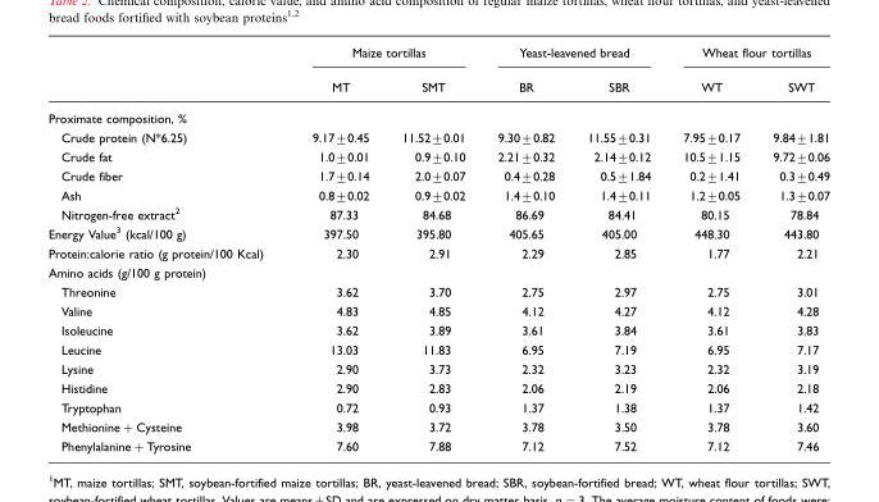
<table><thead><tr><td rowspan="2"></td><td colspan="2">Maize tortillas</td><td colspan="2">Yeast-leavened bread</td><td colspan="2">Wheat flour tortillas</td></tr><tr><td>MT</td><td>SMT</td><td>BR</td><td>SBR</td><td>WT</td><td>SWT</td></tr></thead><tbody><tr><td colspan="7">Proximate composition, %</td></tr><tr><td>Crude protein (N*6.25)</td><td>9.17±0.45</td><td>11.52±0.01</td><td>9.30±0.82</td><td>11.55±0.31</td><td>7.95±0.17</td><td>9.84±1.81</td></tr><tr><td>Crude fat</td><td>1.0±0.01</td><td>0.9±0.10</td><td>2.21±0.32</td><td>2.14±0.12</td><td>10.5±1.15</td><td>9.72±0.06</td></tr><tr><td>Crude fiber</td><td>1.7±0.14</td><td>2.0±0.07</td><td>0.4±0.28</td><td>0.5±1.84</td><td>0.2±1.41</td><td>0.3±0.49</td></tr><tr><td>Ash</td><td>0.8±0.02</td><td>0.9±0.02</td><td>1.4±0.10</td><td>1.4±0.11</td><td>1.2±0.05</td><td>1.3±0.07</td></tr><tr><td>Nitrogen-free extract<sup>2</sup></td><td>87.33</td><td>84.68</td><td>86.69</td><td>84.41</td><td>80.15</td><td>78.84</td></tr><tr><td>Energy Value<sup>3</sup> (kcal/100 g)</td><td>397.50</td><td>395.80</td><td>405.65</td><td>405.00</td><td>448.30</td><td>443.80</td></tr><tr><td>Protein:calorie ratio (g protein/100 Kcal)</td><td>2.30</td><td>2.91</td><td>2.29</td><td>2.85</td><td>1.77</td><td>2.21</td></tr><tr><td colspan="7">Amino acids (g/100 g protein)</td></tr><tr><td>Threonine</td><td>3.62</td><td>3.70</td><td>2.75</td><td>2.97</td><td>2.75</td><td>3.01</td></tr><tr><td>Valine</td><td>4.83</td><td>4.85</td><td>4.12</td><td>4.27</td><td>4.12</td><td>4.28</td></tr><tr><td>Isoleucine</td><td>3.62</td><td>3.89</td><td>3.61</td><td>3.84</td><td>3.61</td><td>3.83</td></tr><tr><td>Leucine</td><td>13.03</td><td>11.83</td><td>6.95</td><td>7.19</td><td>6.95</td><td>7.17</td></tr><tr><td>Lysine</td><td>2.90</td><td>3.73</td><td>2.32</td><td>3.23</td><td>2.32</td><td>3.19</td></tr><tr><td>Histidine</td><td>2.90</td><td>2.83</td><td>2.06</td><td>2.19</td><td>2.06</td><td>2.18</td></tr><tr><td>Tryptophan</td><td>0.72</td><td>0.93</td><td>1.37</td><td>1.38</td><td>1.37</td><td>1.42</td></tr><tr><td>Methionine+Cysteine</td><td>3.98</td><td>3.72</td><td>3.78</td><td>3.50</td><td>3.78</td><td>3.60</td></tr><tr><td>Phenylalanine+Tyrosine</td><td>7.60</td><td>7.88</td><td>7.12</td><td>7.52</td><td>7.12</td><td>7.46</td></tr></tbody></table>